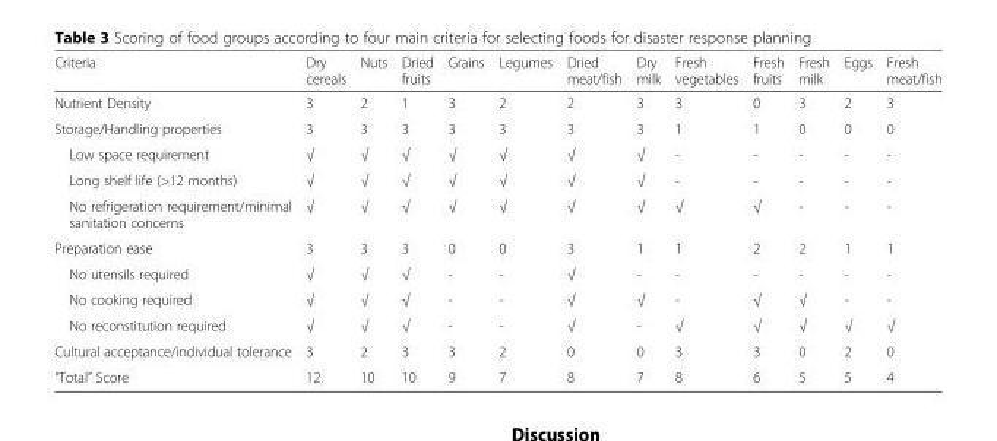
<table><thead><tr><td>Criteria</td><td>Dry cereals</td><td>Nuts</td><td>Dried fruits</td><td>Grains</td><td>Legumes</td><td>Dried meat/fish</td><td>Dry milk</td><td>Fresh vegetables</td><td>Fresh fruits</td><td>Fresh milk</td><td>Eggs</td><td>Fresh meat/fish</td></tr></thead><tbody><tr><td>Nutrient Density</td><td>3</td><td>2</td><td>1</td><td>3</td><td>2</td><td>2</td><td>3</td><td>3</td><td>0</td><td>3</td><td>2</td><td>3</td></tr><tr><td>Storage/Handling properties</td><td>3</td><td>3</td><td>3</td><td>3</td><td>3</td><td>3</td><td>3</td><td>1</td><td>1</td><td>0</td><td>0</td><td>0</td></tr><tr><td>Low space requirement</td><td>√</td><td>√</td><td>√</td><td>√</td><td>√</td><td>√</td><td>√</td><td>-</td><td>-</td><td>-</td><td>-</td><td>-</td></tr><tr><td>Long shelf life (&gt;12 months)</td><td>√</td><td>√</td><td>√</td><td>√</td><td>√</td><td>√</td><td>√</td><td>-</td><td>-</td><td>-</td><td>-</td><td>-</td></tr><tr><td>No refrigeration requirement/minimal sanitation concerns</td><td>√</td><td>√</td><td>√</td><td>√</td><td>√</td><td>√</td><td>√</td><td>√</td><td>√</td><td>-</td><td>-</td><td>-</td></tr><tr><td>Preparation ease</td><td>3</td><td>3</td><td>3</td><td>0</td><td>0</td><td>3</td><td>1</td><td>1</td><td>2</td><td>2</td><td>1</td><td>1</td></tr><tr><td>No utensils required</td><td>√</td><td>√</td><td>√</td><td>-</td><td>-</td><td>√</td><td>-</td><td>-</td><td>-</td><td>-</td><td>-</td><td>-</td></tr><tr><td>No cooking required</td><td>√</td><td>√</td><td>√</td><td>-</td><td>-</td><td>√</td><td>√</td><td>-</td><td>√</td><td>√</td><td>-</td><td>-</td></tr><tr><td>No reconstitution required</td><td>√</td><td>√</td><td>√</td><td>-</td><td>-</td><td>√</td><td>-</td><td>√</td><td>√</td><td>√</td><td>√</td><td>√</td></tr><tr><td>Cultural acceptance/individual tolerance</td><td>3</td><td>2</td><td>3</td><td>3</td><td>2</td><td>0</td><td>0</td><td>3</td><td>3</td><td>0</td><td>2</td><td>0</td></tr><tr><td>“Total” Score</td><td>12</td><td>10</td><td>10</td><td>9</td><td>7</td><td>8</td><td>7</td><td>8</td><td>6</td><td>5</td><td>5</td><td>4</td></tr></tbody></table>